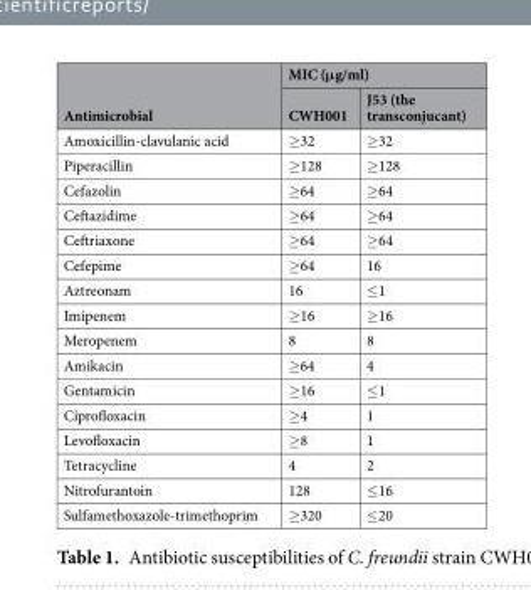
<table><thead><tr><td rowspan="2">Antimicrobial</td><td colspan="2">MIC (μg/ml)</td></tr><tr><td>CWH001</td><td>J53 (the transconjucant)</td></tr></thead><tbody><tr><td>Amoxicillin-clavulanic acid</td><td>≥32</td><td>≥32</td></tr><tr><td>Piperacillin</td><td>≥128</td><td>≥128</td></tr><tr><td>Cefazolin</td><td>≥64</td><td>≥64</td></tr><tr><td>Ceftazidime</td><td>≥64</td><td>≥64</td></tr><tr><td>Ceftriaxone</td><td>≥64</td><td>≥64</td></tr><tr><td>Cefepime</td><td>≥64</td><td>16</td></tr><tr><td>Aztreonam</td><td>16</td><td>≤1</td></tr><tr><td>Imipenem</td><td>≥16</td><td>≥16</td></tr><tr><td>Meropenem</td><td>8</td><td>8</td></tr><tr><td>Amikacin</td><td>≥64</td><td>4</td></tr><tr><td>Gentamicin</td><td>≥16</td><td>≤1</td></tr><tr><td>Ciprofloxacin</td><td>≥4</td><td>1</td></tr><tr><td>Levofloxacin</td><td>≥8</td><td>1</td></tr><tr><td>Tetracycline</td><td>4</td><td>2</td></tr><tr><td>Nitrofurantoin</td><td>128</td><td>≤16</td></tr><tr><td>Sulfamethoxazole-trimethoprim</td><td>≥320</td><td>≤20</td></tr></tbody></table>